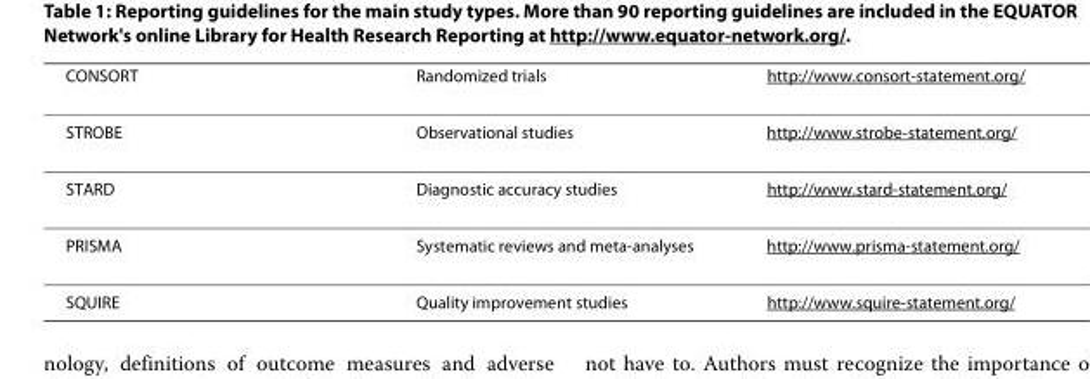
<table><thead><tr><td>CONSORT</td><td>Randomized trials</td><td>http://www.consort-statement.org/</td></tr></thead><tbody><tr><td>STROBE</td><td>Observational studies</td><td>http://www.strobe-statement.org/</td></tr><tr><td>STARD</td><td>Diagnostic accuracy studies</td><td>http://www.stard-statement.org/</td></tr><tr><td>PRISMA</td><td>Systematic reviews and meta-analyses</td><td>http://www.prisma-statement.org/</td></tr><tr><td>SQUIRE</td><td>Quality improvement studies</td><td>http://www.squire-statement.org/</td></tr></tbody></table>